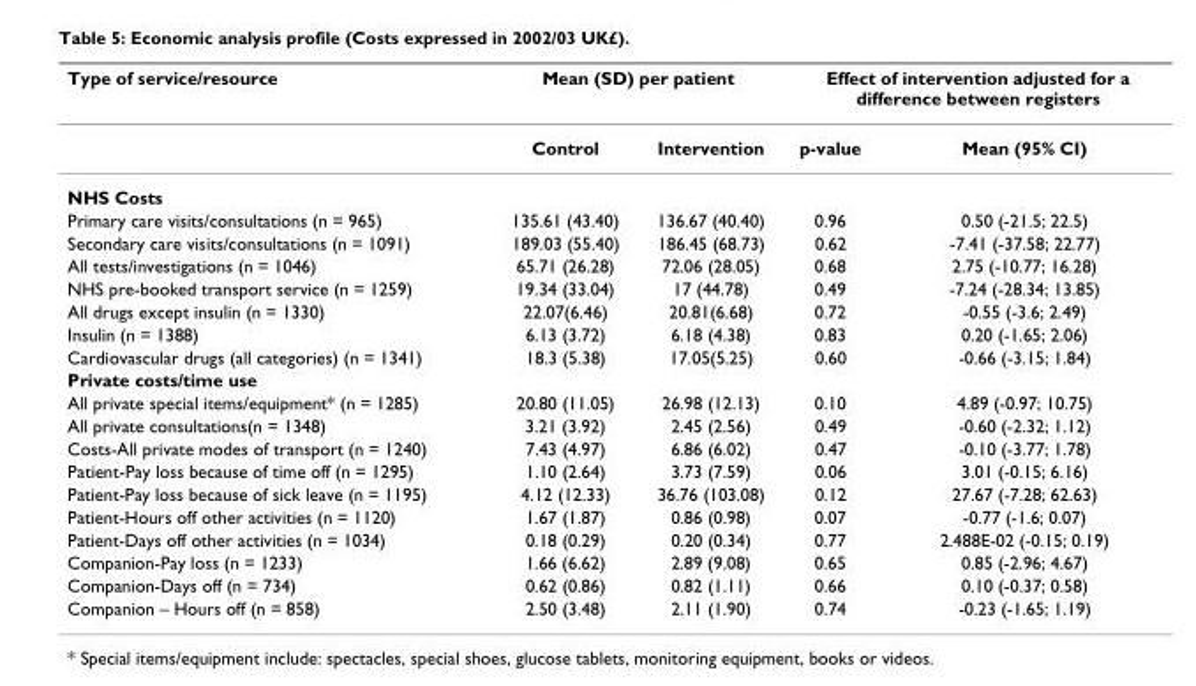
<table><thead><tr><td rowspan="2">Type of service/resource</td><td colspan="2">Mean (SD) per patient</td><td colspan="2">Effect of intervention adjusted for a difference between registers</td></tr><tr><td>Control</td><td>Intervention</td><td>p-value</td><td>Mean (95% CI)</td></tr></thead><tbody><tr><td colspan="5">NHS Costs</td></tr><tr><td>Primary care visits/consultations (n = 965)</td><td>135.61 (43.40)</td><td>136.67 (40.40)</td><td>0.96</td><td>0.50 (-21.5; 22.5)</td></tr><tr><td>Secondary care visits/consultations (n = 1091)</td><td>189.03 (55.40)</td><td>186.45 (68.73)</td><td>0.62</td><td>-7.41 (-37.58; 22.77)</td></tr><tr><td>All tests/investigations (n = 1046)</td><td>65.71 (26.28)</td><td>72.06 (28.05)</td><td>0.68</td><td>2.75 (-10.77; 16.28)</td></tr><tr><td>NHS pre-booked transport service (n = 1259)</td><td>19.34 (33.04)</td><td>17 (44.78)</td><td>0.49</td><td>-7.24 (-28.34; 13.85)</td></tr><tr><td>All drugs except insulin (n = 1330)</td><td>22.07(6.46)</td><td>20.81(6.68)</td><td>0.72</td><td>-0.55 (-3.6; 2.49)</td></tr><tr><td>Insulin (n = 1388)</td><td>6.13 (3.72)</td><td>6.18 (4.38)</td><td>0.83</td><td>0.20 (-1.65; 2.06)</td></tr><tr><td>Cardiovascular drugs (all categories) (n = 1341)</td><td>18.3 (5.38)</td><td>17.05(5.25)</td><td>0.60</td><td>-0.66 (-3.15; 1.84)</td></tr><tr><td colspan="5">Private costs/time use</td></tr><tr><td>All private special items/equipment* (n = 1285)</td><td>20.80 (11.05)</td><td>26.98 (12.13)</td><td>0.10</td><td>4.89 (-0.97; 10.75)</td></tr><tr><td>All private consultations(n = 1348)</td><td>3.21 (3.92)</td><td>2.45 (2.56)</td><td>0.49</td><td>-0.60 (-2.32; 1.12)</td></tr><tr><td>Costs-All private modes of transport (n = 1240)</td><td>7.43 (4.97)</td><td>6.86 (6.02)</td><td>0.47</td><td>-0.10 (-3.77; 1.78)</td></tr><tr><td>Patient-Pay loss because of time off (n = 1295)</td><td>1.10 (2.64)</td><td>3.73 (7.59)</td><td>0.06</td><td>3.01 (-0.15; 6.16)</td></tr><tr><td>Patient-Pay loss because of sick leave (n = 1195)</td><td>4.12 (12.33)</td><td>36.76 (103.08)</td><td>0.12</td><td>27.67 (-7.28; 62.63)</td></tr><tr><td>Patient-Hours off other activities (n = 1120)</td><td>1.67 (1.87)</td><td>0.86 (0.98)</td><td>0.07</td><td>-0.77 (-1.6; 0.07)</td></tr><tr><td>Patient-Days off other activities (n = 1034)</td><td>0.18 (0.29)</td><td>0.20 (0.34)</td><td>0.77</td><td>2.488E-02 (-0.15; 0.19)</td></tr><tr><td>Companion-Pay loss (n = 1233)</td><td>1.66 (6.62)</td><td>2.89 (9.08)</td><td>0.65</td><td>0.85 (-2.96; 4.67)</td></tr><tr><td>Companion-Days off (n = 734)</td><td>0.62 (0.86)</td><td>0.82 (1.11)</td><td>0.66</td><td>0.10 (-0.37; 0.58)</td></tr><tr><td>Companion – Hours off (n = 858)</td><td>2.50 (3.48)</td><td>2.11 (1.90)</td><td>0.74</td><td>-0.23 (-1.65; 1.19)</td></tr></tbody></table>